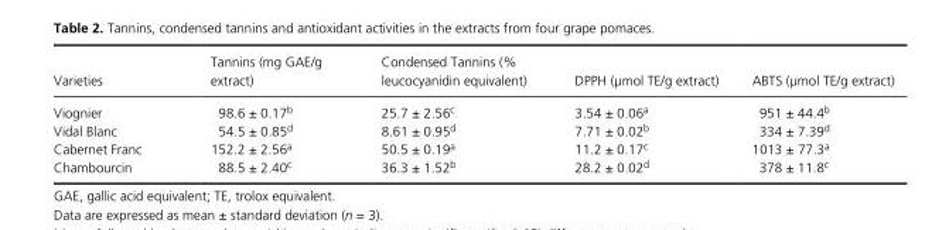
<table><thead><tr><td>Varieties</td><td>Tannins (mg GAE/g extract)</td><td>Condensed Tannins (% leucocyanidin equivalent)</td><td>DPPH (µmol TE/g extract)</td><td>ABTS (µmol TE/g extract)</td></tr></thead><tbody><tr><td>Viognier</td><td>98.6 ± 0.17<sup>b</sup></td><td>25.7 ± 2.56<sup>c</sup></td><td>3.54 ± 0.06<sup>a</sup></td><td>951 ± 44.4<sup>b</sup></td></tr><tr><td>Vidal Blanc</td><td>54.5 ± 0.85<sup>d</sup></td><td>8.61 ± 0.95<sup>d</sup></td><td>7.71 ± 0.02<sup>b</sup></td><td>334 ± 7.39<sup>d</sup></td></tr><tr><td>Cabernet Franc</td><td>152.2 ± 2.56<sup>a</sup></td><td>50.5 ± 0.19<sup>a</sup></td><td>11.2 ± 0.17<sup>c</sup></td><td>1013 ± 77.3<sup>a</sup></td></tr><tr><td>Chambourcin</td><td>88.5 ± 2.40<sup>c</sup></td><td>36.3 ± 1.52<sup>b</sup></td><td>28.2 ± 0.02<sup>d</sup></td><td>378 ± 11.8<sup>c</sup></td></tr></tbody></table>